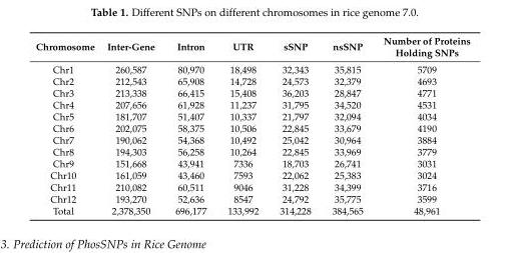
<table><thead><tr><td>Chromosome</td><td>Inter-Gene</td><td>Intron</td><td>UTR</td><td>sSNP</td><td>nsSNP</td><td>Number of Proteins Holding SNPs</td></tr></thead><tbody><tr><td>Chr1</td><td>260,587</td><td>80,970</td><td>18,498</td><td>32,343</td><td>35,815</td><td>5709</td></tr><tr><td>Chr2</td><td>212,543</td><td>65,908</td><td>14,728</td><td>24,573</td><td>32,379</td><td>4693</td></tr><tr><td>Chr3</td><td>213,338</td><td>66,415</td><td>15,408</td><td>36,203</td><td>28,847</td><td>4771</td></tr><tr><td>Chr4</td><td>207,656</td><td>61,928</td><td>11,237</td><td>31,795</td><td>34,520</td><td>4531</td></tr><tr><td>Chr5</td><td>181,707</td><td>51,407</td><td>10,337</td><td>21,797</td><td>32,094</td><td>4034</td></tr><tr><td>Chr6</td><td>202,075</td><td>58,375</td><td>10,506</td><td>22,845</td><td>33,679</td><td>4190</td></tr><tr><td>Chr7</td><td>190,062</td><td>54,368</td><td>10,492</td><td>25,042</td><td>30,964</td><td>3884</td></tr><tr><td>Chr8</td><td>194,303</td><td>56,258</td><td>10,264</td><td>22,845</td><td>33,969</td><td>3779</td></tr><tr><td>Chr9</td><td>151,668</td><td>43,941</td><td>7336</td><td>18,703</td><td>26,741</td><td>3031</td></tr><tr><td>Chr10</td><td>161,059</td><td>43,460</td><td>7593</td><td>22,062</td><td>25,383</td><td>3024</td></tr><tr><td>Chr11</td><td>210,082</td><td>60,511</td><td>9046</td><td>31,228</td><td>34,399</td><td>3716</td></tr><tr><td>Chr12</td><td>193,270</td><td>52,636</td><td>8547</td><td>24,792</td><td>35,775</td><td>3599</td></tr><tr><td>Total</td><td>2,378,350</td><td>696,177</td><td>133,992</td><td>314,228</td><td>384,565</td><td>48,961</td></tr></tbody></table>